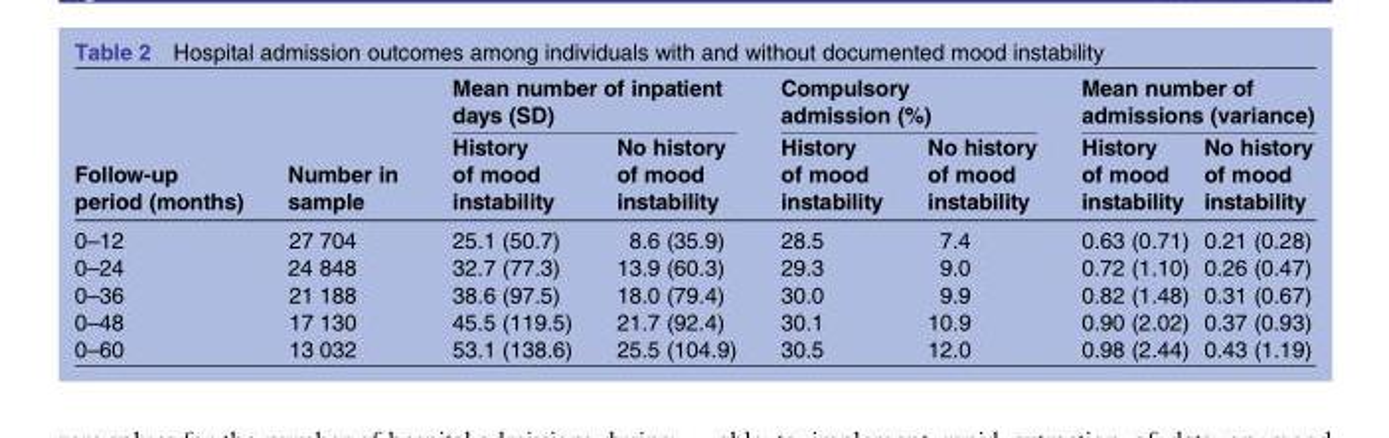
<table><thead><tr><td rowspan="2">Follow-up period (months)</td><td rowspan="2">Number in sample</td><td colspan="2">Mean number of inpatient days (SD)</td><td colspan="2">Compulsory admission (%)</td><td colspan="2">Mean number of admissions (variance)</td></tr><tr><td>History of mood instability</td><td>No history of mood instability</td><td>History of mood instability</td><td>No history of mood instability</td><td>History of mood instability</td><td>No history of mood instability</td></tr></thead><tbody><tr><td>0–12</td><td>27 704</td><td>25.1 (50.7)</td><td>8.6 (35.9)</td><td>28.5</td><td>7.4</td><td>0.63 (0.71)</td><td>0.21 (0.28)</td></tr><tr><td>0–24</td><td>24 848</td><td>32.7 (77.3)</td><td>13.9 (60.3)</td><td>29.3</td><td>9.0</td><td>0.72 (1.10)</td><td>0.26 (0.47)</td></tr><tr><td>0–36</td><td>21 188</td><td>38.6 (97.5)</td><td>18.0 (79.4)</td><td>30.0</td><td>9.9</td><td>0.82 (1.48)</td><td>0.31 (0.67)</td></tr><tr><td>0–48</td><td>17 130</td><td>45.5 (119.5)</td><td>21.7 (92.4)</td><td>30.1</td><td>10.9</td><td>0.90 (2.02)</td><td>0.37 (0.93)</td></tr><tr><td>0–60</td><td>13 032</td><td>53.1 (138.6)</td><td>25.5 (104.9)</td><td>30.5</td><td>12.0</td><td>0.98 (2.44)</td><td>0.43 (1.19)</td></tr></tbody></table>